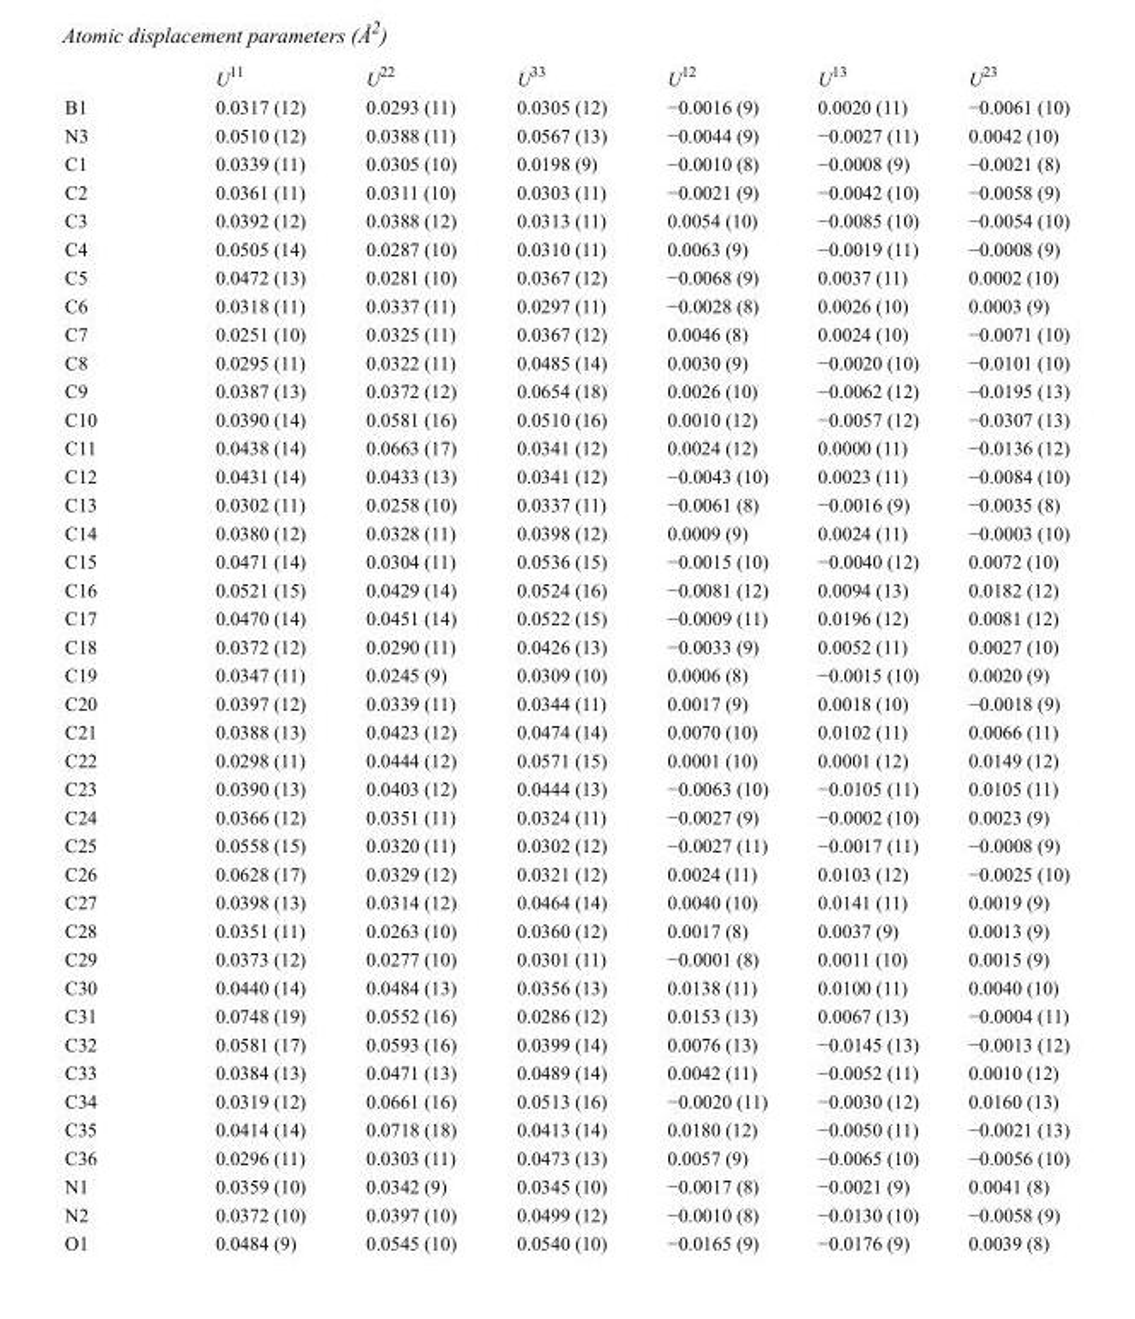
<table><thead><tr><td></td><td>U<sup>11</sup></td><td>U<sup>22</sup></td><td>U<sup>33</sup></td><td>U<sup>12</sup></td><td>U<sup>13</sup></td><td>U<sup>23</sup></td></tr></thead><tbody><tr><td>B1</td><td>0.0317 (12)</td><td>0.0293 (11)</td><td>0.0305 (12)</td><td>−0.0016 (9)</td><td>0.0020 (11)</td><td>−0.0061 (10)</td></tr><tr><td>N3</td><td>0.0510 (12)</td><td>0.0388 (11)</td><td>0.0567 (13)</td><td>−0.0044 (9)</td><td>−0.0027 (11)</td><td>0.0042 (10)</td></tr><tr><td>C1</td><td>0.0339 (11)</td><td>0.0305 (10)</td><td>0.0198 (9)</td><td>−0.0010 (8)</td><td>−0.0008 (9)</td><td>−0.0021 (8)</td></tr><tr><td>C2</td><td>0.0361 (11)</td><td>0.0311 (10)</td><td>0.0303 (11)</td><td>−0.0021 (9)</td><td>−0.0042 (10)</td><td>−0.0058 (9)</td></tr><tr><td>C3</td><td>0.0392 (12)</td><td>0.0388 (12)</td><td>0.0313 (11)</td><td>0.0054 (10)</td><td>−0.0085 (10)</td><td>−0.0054 (10)</td></tr><tr><td>C4</td><td>0.0505 (14)</td><td>0.0287 (10)</td><td>0.0310 (11)</td><td>0.0063 (9)</td><td>−0.0019 (11)</td><td>−0.0008 (9)</td></tr><tr><td>C5</td><td>0.0472 (13)</td><td>0.0281 (10)</td><td>0.0367 (12)</td><td>−0.0068 (9)</td><td>0.0037 (11)</td><td>0.0002 (10)</td></tr><tr><td>C6</td><td>0.0318 (11)</td><td>0.0337 (11)</td><td>0.0297 (11)</td><td>−0.0028 (8)</td><td>0.0026 (10)</td><td>0.0003 (9)</td></tr><tr><td>C7</td><td>0.0251 (10)</td><td>0.0325 (11)</td><td>0.0367 (12)</td><td>0.0046 (8)</td><td>0.0024 (10)</td><td>−0.0071 (10)</td></tr><tr><td>C8</td><td>0.0295 (11)</td><td>0.0322 (11)</td><td>0.0485 (14)</td><td>0.0030 (9)</td><td>−0.0020 (10)</td><td>−0.0101 (10)</td></tr><tr><td>C9</td><td>0.0387 (13)</td><td>0.0372 (12)</td><td>0.0654 (18)</td><td>0.0026 (10)</td><td>−0.0062 (12)</td><td>−0.0195 (13)</td></tr><tr><td>C10</td><td>0.0390 (14)</td><td>0.0581 (16)</td><td>0.0510 (16)</td><td>0.0010 (12)</td><td>−0.0057 (12)</td><td>−0.0307 (13)</td></tr><tr><td>C11</td><td>0.0438 (14)</td><td>0.0663 (17)</td><td>0.0341 (12)</td><td>0.0024 (12)</td><td>0.0000 (11)</td><td>−0.0136 (12)</td></tr><tr><td>C12</td><td>0.0431 (14)</td><td>0.0433 (13)</td><td>0.0341 (12)</td><td>−0.0043 (10)</td><td>0.0023 (11)</td><td>−0.0084 (10)</td></tr><tr><td>C13</td><td>0.0302 (11)</td><td>0.0258 (10)</td><td>0.0337 (11)</td><td>−0.0061 (8)</td><td>−0.0016 (9)</td><td>−0.0035 (8)</td></tr><tr><td>C14</td><td>0.0380 (12)</td><td>0.0328 (11)</td><td>0.0398 (12)</td><td>0.0009 (9)</td><td>0.0024 (11)</td><td>−0.0003 (10)</td></tr><tr><td>C15</td><td>0.0471 (14)</td><td>0.0304 (11)</td><td>0.0536 (15)</td><td>−0.0015 (10)</td><td>−0.0040 (12)</td><td>0.0072 (10)</td></tr><tr><td>C16</td><td>0.0521 (15)</td><td>0.0429 (14)</td><td>0.0524 (16)</td><td>−0.0081 (12)</td><td>0.0094 (13)</td><td>0.0182 (12)</td></tr><tr><td>C17</td><td>0.0470 (14)</td><td>0.0451 (14)</td><td>0.0522 (15)</td><td>−0.0009 (11)</td><td>0.0196 (12)</td><td>0.0081 (12)</td></tr><tr><td>C18</td><td>0.0372 (12)</td><td>0.0290 (11)</td><td>0.0426 (13)</td><td>−0.0033 (9)</td><td>0.0052 (11)</td><td>0.0027 (10)</td></tr><tr><td>C19</td><td>0.0347 (11)</td><td>0.0245 (9)</td><td>0.0309 (10)</td><td>0.0006 (8)</td><td>−0.0015 (10)</td><td>0.0020 (9)</td></tr><tr><td>C20</td><td>0.0397 (12)</td><td>0.0339 (11)</td><td>0.0344 (11)</td><td>0.0017 (9)</td><td>0.0018 (10)</td><td>−0.0018 (9)</td></tr><tr><td>C21</td><td>0.0388 (13)</td><td>0.0423 (12)</td><td>0.0474 (14)</td><td>0.0070 (10)</td><td>0.0102 (11)</td><td>0.0066 (11)</td></tr><tr><td>C22</td><td>0.0298 (11)</td><td>0.0444 (12)</td><td>0.0571 (15)</td><td>0.0001 (10)</td><td>0.0001 (12)</td><td>0.0149 (12)</td></tr><tr><td>C23</td><td>0.0390 (13)</td><td>0.0403 (12)</td><td>0.0444 (13)</td><td>−0.0063 (10)</td><td>−0.0105 (11)</td><td>0.0105 (11)</td></tr><tr><td>C24</td><td>0.0366 (12)</td><td>0.0351 (11)</td><td>0.0324 (11)</td><td>−0.0027 (9)</td><td>−0.0002 (10)</td><td>0.0023 (9)</td></tr><tr><td>C25</td><td>0.0558 (15)</td><td>0.0320 (11)</td><td>0.0302 (12)</td><td>−0.0027 (11)</td><td>−0.0017 (11)</td><td>−0.0008 (9)</td></tr><tr><td>C26</td><td>0.0628 (17)</td><td>0.0329 (12)</td><td>0.0321 (12)</td><td>0.0024 (11)</td><td>0.0103 (12)</td><td>−0.0025 (10)</td></tr><tr><td>C27</td><td>0.0398 (13)</td><td>0.0314 (12)</td><td>0.0464 (14)</td><td>0.0040 (10)</td><td>0.0141 (11)</td><td>0.0019 (9)</td></tr><tr><td>C28</td><td>0.0351 (11)</td><td>0.0263 (10)</td><td>0.0360 (12)</td><td>0.0017 (8)</td><td>0.0037 (9)</td><td>0.0013 (9)</td></tr><tr><td>C29</td><td>0.0373 (12)</td><td>0.0277 (10)</td><td>0.0301 (11)</td><td>−0.0001 (8)</td><td>0.0011 (10)</td><td>0.0015 (9)</td></tr><tr><td>C30</td><td>0.0440 (14)</td><td>0.0484 (13)</td><td>0.0356 (13)</td><td>0.0138 (11)</td><td>0.0100 (11)</td><td>0.0040 (10)</td></tr><tr><td>C31</td><td>0.0748 (19)</td><td>0.0552 (16)</td><td>0.0286 (12)</td><td>0.0153 (13)</td><td>0.0067 (13)</td><td>−0.0004 (11)</td></tr><tr><td>C32</td><td>0.0581 (17)</td><td>0.0593 (16)</td><td>0.0399 (14)</td><td>0.0076 (13)</td><td>−0.0145 (13)</td><td>−0.0013 (12)</td></tr><tr><td>C33</td><td>0.0384 (13)</td><td>0.0471 (13)</td><td>0.0489 (14)</td><td>0.0042 (11)</td><td>−0.0052 (11)</td><td>0.0010 (12)</td></tr><tr><td>C34</td><td>0.0319 (12)</td><td>0.0661 (16)</td><td>0.0513 (16)</td><td>−0.0020 (11)</td><td>−0.0030 (12)</td><td>0.0160 (13)</td></tr><tr><td>C35</td><td>0.0414 (14)</td><td>0.0718 (18)</td><td>0.0413 (14)</td><td>0.0180 (12)</td><td>−0.0050 (11)</td><td>−0.0021 (13)</td></tr><tr><td>C36</td><td>0.0296 (11)</td><td>0.0303 (11)</td><td>0.0473 (13)</td><td>0.0057 (9)</td><td>−0.0065 (10)</td><td>−0.0056 (10)</td></tr><tr><td>N1</td><td>0.0359 (10)</td><td>0.0342 (9)</td><td>0.0345 (10)</td><td>−0.0017 (8)</td><td>−0.0021 (9)</td><td>0.0041 (8)</td></tr><tr><td>N2</td><td>0.0372 (10)</td><td>0.0397 (10)</td><td>0.0499 (12)</td><td>−0.0010 (8)</td><td>−0.0130 (10)</td><td>−0.0058 (9)</td></tr><tr><td>O1</td><td>0.0484 (9)</td><td>0.0545 (10)</td><td>0.0540 (10)</td><td>−0.0165 (9)</td><td>−0.0176 (9)</td><td>0.0039 (8)</td></tr></tbody></table>